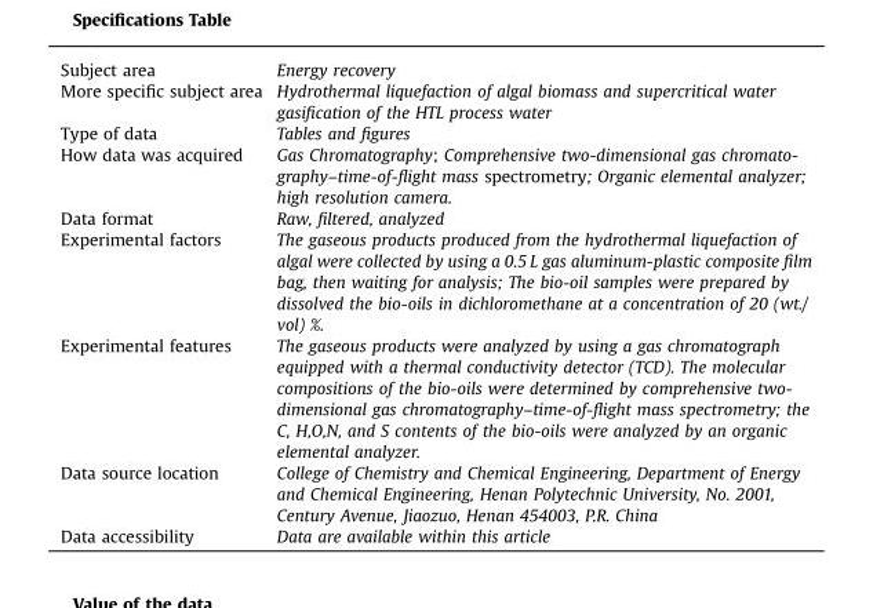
<table><thead><tr><td>Subject area</td><td>Energy recovery</td></tr></thead><tbody><tr><td>More specific subject area</td><td>Hydrothermal liquefaction of algal biomass and supercritical water gasification of the HTL process water</td></tr><tr><td>Type of data</td><td>Tables and figures</td></tr><tr><td>How data was acquired</td><td>Gas Chromatography; Comprehensive two-dimensional gas chromato- graphy–time-of-flight mass spectrometry; Organic elemental analyzer; high resolution camera.</td></tr><tr><td>Data format</td><td>Raw, filtered, analyzed</td></tr><tr><td>Experimental factors</td><td>The gaseous products produced from the hydrothermal liquefaction of algal were collected by using a 0.5 L gas aluminum-plastic composite film bag, then waiting for analysis; The bio-oil samples were prepared by dissolved the bio-oils in dichloromethane at a concentration of 20 (wt./ vol) %.</td></tr><tr><td>Experimental features</td><td>The gaseous products were analyzed by using a gas chromatograph equipped with a thermal conductivity detector (TCD). The molecular compositions of the bio-oils were determined by comprehensive two- dimensional gas chromatography–time-of-flight mass spectrometry; the C, H,O,N, and S contents of the bio-oils were analyzed by an organic elemental analyzer.</td></tr><tr><td>Data source location</td><td>College of Chemistry and Chemical Engineering, Department of Energy and Chemical Engineering, Henan Polytechnic University, No. 2001, Century Avenue, Jiaozuo, Henan 454003, P.R. China</td></tr><tr><td>Data accessibility</td><td>Data are available within this article</td></tr></tbody></table>